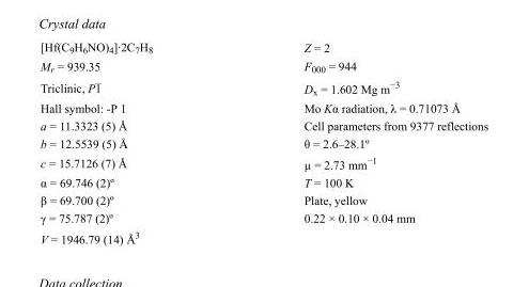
<table><tbody><tr><td>[Hf(C<sub>9</sub>H<sub>6</sub>NO)<sub>4</sub>]·2C<sub>7</sub>H<sub>8</sub></td><td>Z = 2</td></tr><tr><td>M<sub>r</sub> = 939.35</td><td>F000 = 944</td></tr><tr><td>Triclinic, P1</td><td>D<sub>x</sub> = 1.602 Mg m<sup>−3</sup></td></tr><tr><td>Hall symbol: -P 1</td><td>Mo Kα radiation, λ = 0.71073 Å</td></tr><tr><td>a = 11.3323 (5) Å</td><td>Cell parameters from 9377 reflections</td></tr><tr><td>b = 12.5539 (5) Å</td><td>θ = 2.6–28.1º</td></tr><tr><td>c = 15.7126 (7) Å</td><td>µ = 2.73 mm<sup>−1</sup></td></tr><tr><td>α = 69.746 (2)º</td><td>T = 100 K</td></tr><tr><td>β = 69.700 (2)º</td><td>Plate, yellow</td></tr><tr><td>γ = 75.787 (2)º</td><td>0.22 × 0.10 × 0.04 mm</td></tr><tr><td>V = 1946.79 (14) Å<sup>3</sup></td><td></td></tr></tbody></table>